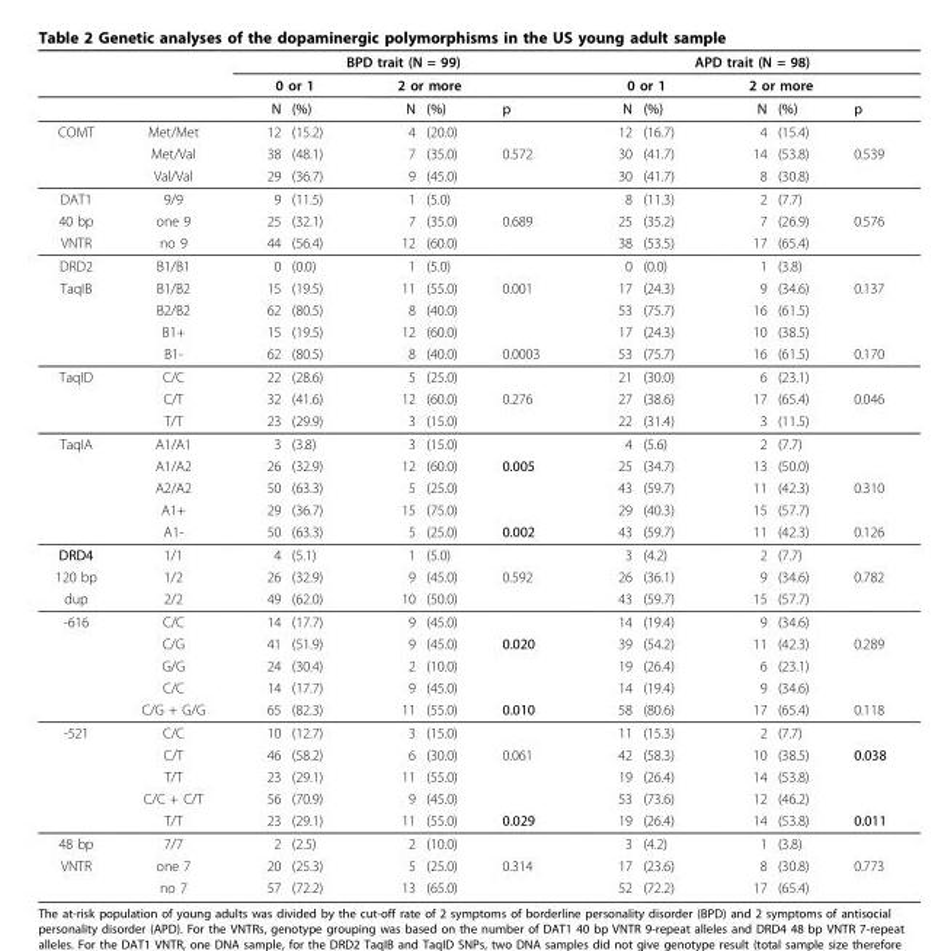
<table><thead><tr><td rowspan="3"></td><td rowspan="3"></td><td colspan="5">BPD trait (N = 99)</td><td colspan="5">APD trait (N = 98)</td></tr><tr><td colspan="2">0 or 1</td><td colspan="2">2 or more</td><td rowspan="2">p</td><td colspan="2">0 or 1</td><td colspan="2">2 or more</td><td rowspan="2">p</td></tr><tr><td>N</td><td>(%)</td><td>N</td><td>(%)</td><td>N</td><td>(%)</td><td>N</td><td>(%)</td></tr></thead><tbody><tr><td rowspan="3">COMT</td><td>Met/Met</td><td>12</td><td>(15.2)</td><td>4</td><td>(20.0)</td><td></td><td>12</td><td>(16.7)</td><td>4</td><td>(15.4)</td><td></td></tr><tr><td>Met/Val</td><td>38</td><td>(48.1)</td><td>7</td><td>(35.0)</td><td>0.572</td><td>30</td><td>(41.7)</td><td>14</td><td>(53.8)</td><td>0.539</td></tr><tr><td>Val/Val</td><td>29</td><td>(36.7)</td><td>9</td><td>(45.0)</td><td></td><td>30</td><td>(41.7)</td><td>8</td><td>(30.8)</td><td></td></tr><tr><td>DAT1</td><td>9/9</td><td>9</td><td>(11.5)</td><td>1</td><td>(5.0)</td><td></td><td>8</td><td>(11.3)</td><td>2</td><td>(7.7)</td><td></td></tr><tr><td>40 bp</td><td>one 9</td><td>25</td><td>(32.1)</td><td>7</td><td>(35.0)</td><td>0.689</td><td>25</td><td>(35.2)</td><td>7</td><td>(26.9)</td><td>0.576</td></tr><tr><td>VNTR</td><td>no 9</td><td>44</td><td>(56.4)</td><td>12</td><td>(60.0)</td><td></td><td>38</td><td>(53.5)</td><td>17</td><td>(65.4)</td><td></td></tr><tr><td>DRD2</td><td>B1/B1</td><td>0</td><td>(0.0)</td><td>1</td><td>(5.0)</td><td></td><td>0</td><td>(0.0)</td><td>1</td><td>(3.8)</td><td></td></tr><tr><td rowspan="4">TaqIB</td><td>B1/B2</td><td>15</td><td>(19.5)</td><td>11</td><td>(55.0)</td><td>0.001</td><td>17</td><td>(24.3)</td><td>9</td><td>(34.6)</td><td>0.137</td></tr><tr><td>B2/B2</td><td>62</td><td>(80.5)</td><td>8</td><td>(40.0)</td><td></td><td>53</td><td>(75.7)</td><td>16</td><td>(61.5)</td><td></td></tr><tr><td>B1+</td><td>15</td><td>(19.5)</td><td>12</td><td>(60.0)</td><td></td><td>17</td><td>(24.3)</td><td>10</td><td>(38.5)</td><td></td></tr><tr><td>B1-</td><td>62</td><td>(80.5)</td><td>8</td><td>(40.0)</td><td>0.0003</td><td>53</td><td>(75.7)</td><td>16</td><td>(61.5)</td><td>0.170</td></tr><tr><td rowspan="3">TaqID</td><td>C/C</td><td>22</td><td>(28.6)</td><td>5</td><td>(25.0)</td><td></td><td>21</td><td>(30.0)</td><td>6</td><td>(23.1)</td><td></td></tr><tr><td>C/T</td><td>32</td><td>(41.6)</td><td>12</td><td>(60.0)</td><td>0.276</td><td>27</td><td>(38.6)</td><td>17</td><td>(65.4)</td><td>0.046</td></tr><tr><td>T/T</td><td>23</td><td>(29.9)</td><td>3</td><td>(15.0)</td><td></td><td>22</td><td>(31.4)</td><td>3</td><td>(11.5)</td><td></td></tr><tr><td rowspan="5">TaqIA</td><td>A1/A1</td><td>3</td><td>(3.8)</td><td>3</td><td>(15.0)</td><td></td><td>4</td><td>(5.6)</td><td>2</td><td>(7.7)</td><td></td></tr><tr><td>A1/A2</td><td>26</td><td>(32.9)</td><td>12</td><td>(60.0)</td><td>0.005</td><td>25</td><td>(34.7)</td><td>13</td><td>(50.0)</td><td></td></tr><tr><td>A2/A2</td><td>50</td><td>(63.3)</td><td>5</td><td>(25.0)</td><td></td><td>43</td><td>(59.7)</td><td>11</td><td>(42.3)</td><td>0.310</td></tr><tr><td>A1+</td><td>29</td><td>(36.7)</td><td>15</td><td>(75.0)</td><td></td><td>29</td><td>(40.3)</td><td>15</td><td>(57.7)</td><td></td></tr><tr><td>A1-</td><td>50</td><td>(63.3)</td><td>5</td><td>(25.0)</td><td>0.002</td><td>43</td><td>(59.7)</td><td>11</td><td>(42.3)</td><td>0.126</td></tr><tr><td>DRD4</td><td>1/1</td><td>4</td><td>(5.1)</td><td>1</td><td>(5.0)</td><td></td><td>3</td><td>(4.2)</td><td>2</td><td>(7.7)</td><td></td></tr><tr><td>120 bp</td><td>1/2</td><td>26</td><td>(32.9)</td><td>9</td><td>(45.0)</td><td>0.592</td><td>26</td><td>(36.1)</td><td>9</td><td>(34.6)</td><td>0.782</td></tr><tr><td>dup</td><td>2/2</td><td>49</td><td>(62.0)</td><td>10</td><td>(50.0)</td><td></td><td>43</td><td>(59.7)</td><td>15</td><td>(57.7)</td><td></td></tr><tr><td rowspan="5">-616</td><td>C/C</td><td>14</td><td>(17.7)</td><td>9</td><td>(45.0)</td><td></td><td>14</td><td>(19.4)</td><td>9</td><td>(34.6)</td><td></td></tr><tr><td>C/G</td><td>41</td><td>(51.9)</td><td>9</td><td>(45.0)</td><td>0.020</td><td>39</td><td>(54.2)</td><td>11</td><td>(42.3)</td><td>0.289</td></tr><tr><td>G/G</td><td>24</td><td>(30.4)</td><td>2</td><td>(10.0)</td><td></td><td>19</td><td>(26.4)</td><td>6</td><td>(23.1)</td><td></td></tr><tr><td>C/C</td><td>14</td><td>(17.7)</td><td>9</td><td>(45.0)</td><td></td><td>14</td><td>(19.4)</td><td>9</td><td>(34.6)</td><td></td></tr><tr><td>C/G + G/G</td><td>65</td><td>(82.3)</td><td>11</td><td>(55.0)</td><td>0.010</td><td>58</td><td>(80.6)</td><td>17</td><td>(65.4)</td><td>0.118</td></tr><tr><td rowspan="5">-521</td><td>C/C</td><td>10</td><td>(12.7)</td><td>3</td><td>(15.0)</td><td></td><td>11</td><td>(15.3)</td><td>2</td><td>(7.7)</td><td></td></tr><tr><td>C/T</td><td>46</td><td>(58.2)</td><td>6</td><td>(30.0)</td><td>0.061</td><td>42</td><td>(58.3)</td><td>10</td><td>(38.5)</td><td>0.038</td></tr><tr><td>T/T</td><td>23</td><td>(29.1)</td><td>11</td><td>(55.0)</td><td></td><td>19</td><td>(26.4)</td><td>14</td><td>(53.8)</td><td></td></tr><tr><td>C/C + C/T</td><td>56</td><td>(70.9)</td><td>9</td><td>(45.0)</td><td></td><td>53</td><td>(73.6)</td><td>12</td><td>(46.2)</td><td></td></tr><tr><td>T/T</td><td>23</td><td>(29.1)</td><td>11</td><td>(55.0)</td><td>0.029</td><td>19</td><td>(26.4)</td><td>14</td><td>(53.8)</td><td>0.011</td></tr><tr><td>48 bp</td><td>7/7</td><td>2</td><td>(2.5)</td><td>2</td><td>(10.0)</td><td></td><td>3</td><td>(4.2)</td><td>1</td><td>(3.8)</td><td></td></tr><tr><td rowspan="2">VNTR</td><td>one 7</td><td>20</td><td>(25.3)</td><td>5</td><td>(25.0)</td><td>0.314</td><td>17</td><td>(23.6)</td><td>8</td><td>(30.8)</td><td>0.773</td></tr><tr><td>no 7</td><td>57</td><td>(72.2)</td><td>13</td><td>(65.0)</td><td></td><td>52</td><td>(72.2)</td><td>17</td><td>(65.4)</td><td></td></tr></tbody></table>